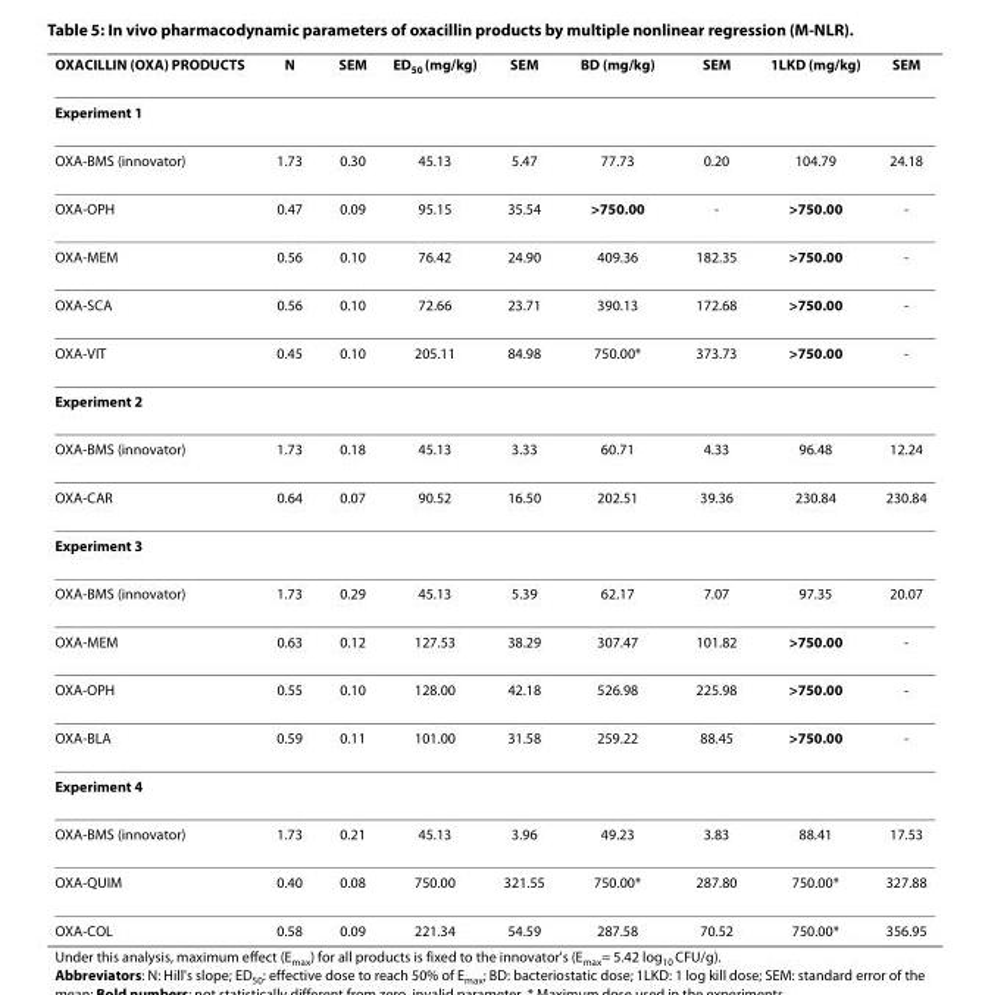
<table><thead><tr><td>OXACILLIN (OXA) PRODUCTS</td><td>N</td><td>SEM</td><td>ED50 (mg/kg)</td><td>SEM</td><td>BD (mg/kg)</td><td>SEM</td><td>1LKD (mg/kg)</td><td>SEM</td></tr></thead><tbody><tr><td colspan="9">Experiment 1</td></tr><tr><td>OXA-BMS (innovator)</td><td>1.73</td><td>0.30</td><td>45.13</td><td>5.47</td><td>77.73</td><td>0.20</td><td>104.79</td><td>24.18</td></tr><tr><td>OXA-OPH</td><td>0.47</td><td>0.09</td><td>95.15</td><td>35.54</td><td>&gt;750.00</td><td>-</td><td>&gt;750.00</td><td>-</td></tr><tr><td>OXA-MEM</td><td>0.56</td><td>0.10</td><td>76.42</td><td>24.90</td><td>409.36</td><td>182.35</td><td>&gt;750.00</td><td>-</td></tr><tr><td>OXA-SCA</td><td>0.56</td><td>0.10</td><td>72.66</td><td>23.71</td><td>390.13</td><td>172.68</td><td>&gt;750.00</td><td>-</td></tr><tr><td>OXA-VIT</td><td>0.45</td><td>0.10</td><td>205.11</td><td>84.98</td><td>750.00*</td><td>373.73</td><td>&gt;750.00</td><td>-</td></tr><tr><td colspan="9">Experiment 2</td></tr><tr><td>OXA-BMS (innovator)</td><td>1.73</td><td>0.18</td><td>45.13</td><td>3.33</td><td>60.71</td><td>4.33</td><td>96.48</td><td>12.24</td></tr><tr><td>OXA-CAR</td><td>0.64</td><td>0.07</td><td>90.52</td><td>16.50</td><td>202.51</td><td>39.36</td><td>230.84</td><td>230.84</td></tr><tr><td colspan="9">Experiment 3</td></tr><tr><td>OXA-BMS (innovator)</td><td>1.73</td><td>0.29</td><td>45.13</td><td>5.39</td><td>62.17</td><td>7.07</td><td>97.35</td><td>20.07</td></tr><tr><td>OXA-MEM</td><td>0.63</td><td>0.12</td><td>127.53</td><td>38.29</td><td>307.47</td><td>101.82</td><td>&gt;750.00</td><td>-</td></tr><tr><td>OXA-OPH</td><td>0.55</td><td>0.10</td><td>128.00</td><td>42.18</td><td>526.98</td><td>225.98</td><td>&gt;750.00</td><td>-</td></tr><tr><td>OXA-BLA</td><td>0.59</td><td>0.11</td><td>101.00</td><td>31.58</td><td>259.22</td><td>88.45</td><td>&gt;750.00</td><td>-</td></tr><tr><td colspan="9">Experiment 4</td></tr><tr><td>OXA-BMS (innovator)</td><td>1.73</td><td>0.21</td><td>45.13</td><td>3.96</td><td>49.23</td><td>3.83</td><td>88.41</td><td>17.53</td></tr><tr><td>OXA-QUIM</td><td>0.40</td><td>0.08</td><td>750.00</td><td>321.55</td><td>750.00*</td><td>287.80</td><td>750.00*</td><td>327.88</td></tr><tr><td>OXA-COL</td><td>0.58</td><td>0.09</td><td>221.34</td><td>54.59</td><td>287.58</td><td>70.52</td><td>750.00*</td><td>356.95</td></tr></tbody></table>